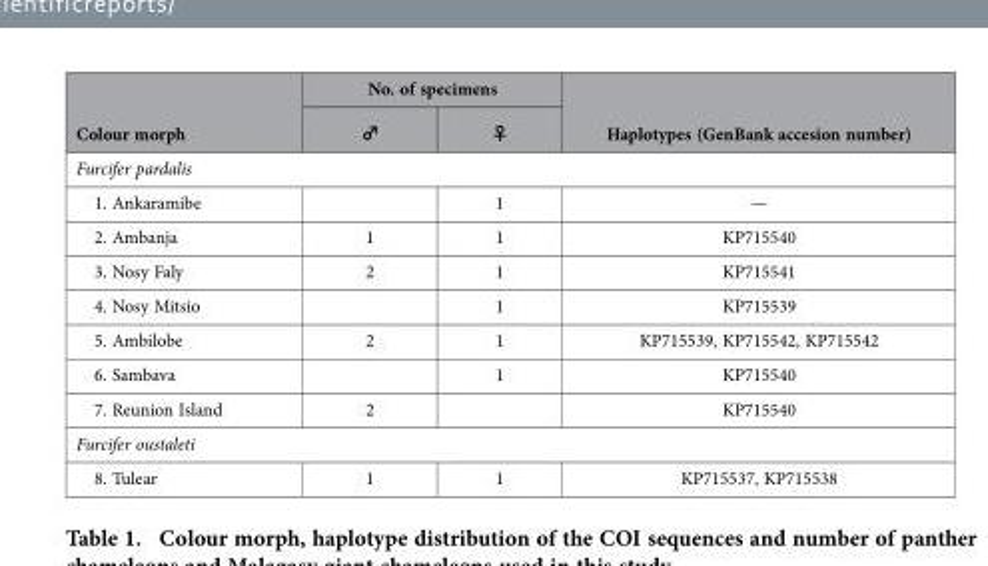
<table><thead><tr><td rowspan="2">Colour morph</td><td colspan="2">No. of specimens</td><td rowspan="2">Haplotypes (GenBank accesion number)</td></tr><tr><td>♂</td><td>♀</td></tr></thead><tbody><tr><td colspan="4">Furcifer pardalis</td></tr><tr><td>1. Ankaramibe</td><td></td><td>1</td><td>—</td></tr><tr><td>2. Ambanja</td><td>1</td><td>1</td><td>KP715540</td></tr><tr><td>3. Nosy Faly</td><td>2</td><td>1</td><td>KP715541</td></tr><tr><td>4. Nosy Mitsio</td><td></td><td>1</td><td>KP715539</td></tr><tr><td>5. Ambilobe</td><td>2</td><td>1</td><td>KP715539, KP715542, KP715542</td></tr><tr><td>6. Sambava</td><td></td><td>1</td><td>KP715540</td></tr><tr><td>7. Reunion Island</td><td>2</td><td></td><td>KP715540</td></tr><tr><td colspan="4">Furcifer oustaleti</td></tr><tr><td>8. Tulear</td><td>1</td><td>1</td><td>KP715537, KP715538</td></tr></tbody></table>